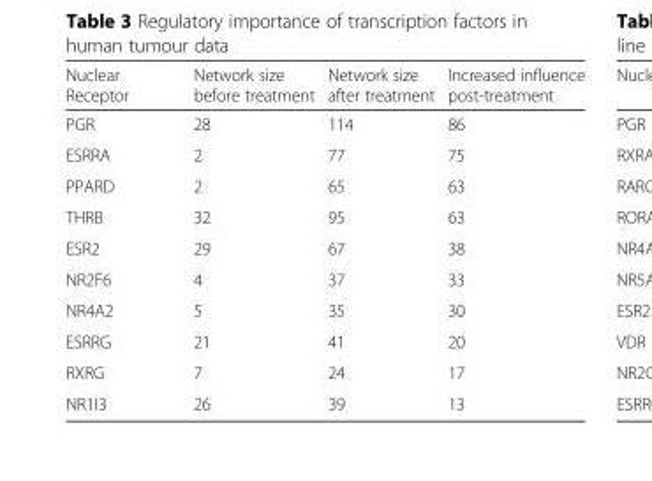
<table><thead><tr><td>Nuclear Receptor</td><td>Network size before treatment</td><td>Network size after treatment</td><td>Increased influence post-treatment</td></tr></thead><tbody><tr><td>PGR</td><td>28</td><td>114</td><td>86</td></tr><tr><td>ESRRA</td><td>2</td><td>77</td><td>75</td></tr><tr><td>PPARD</td><td>2</td><td>65</td><td>63</td></tr><tr><td>THRB</td><td>32</td><td>95</td><td>63</td></tr><tr><td>ESR2</td><td>29</td><td>67</td><td>38</td></tr><tr><td>NR2F6</td><td>4</td><td>37</td><td>33</td></tr><tr><td>NR4A2</td><td>5</td><td>35</td><td>30</td></tr><tr><td>ESRRG</td><td>21</td><td>41</td><td>20</td></tr><tr><td>RXRG</td><td>7</td><td>24</td><td>17</td></tr><tr><td>NR1I3</td><td>26</td><td>39</td><td>13</td></tr></tbody></table>